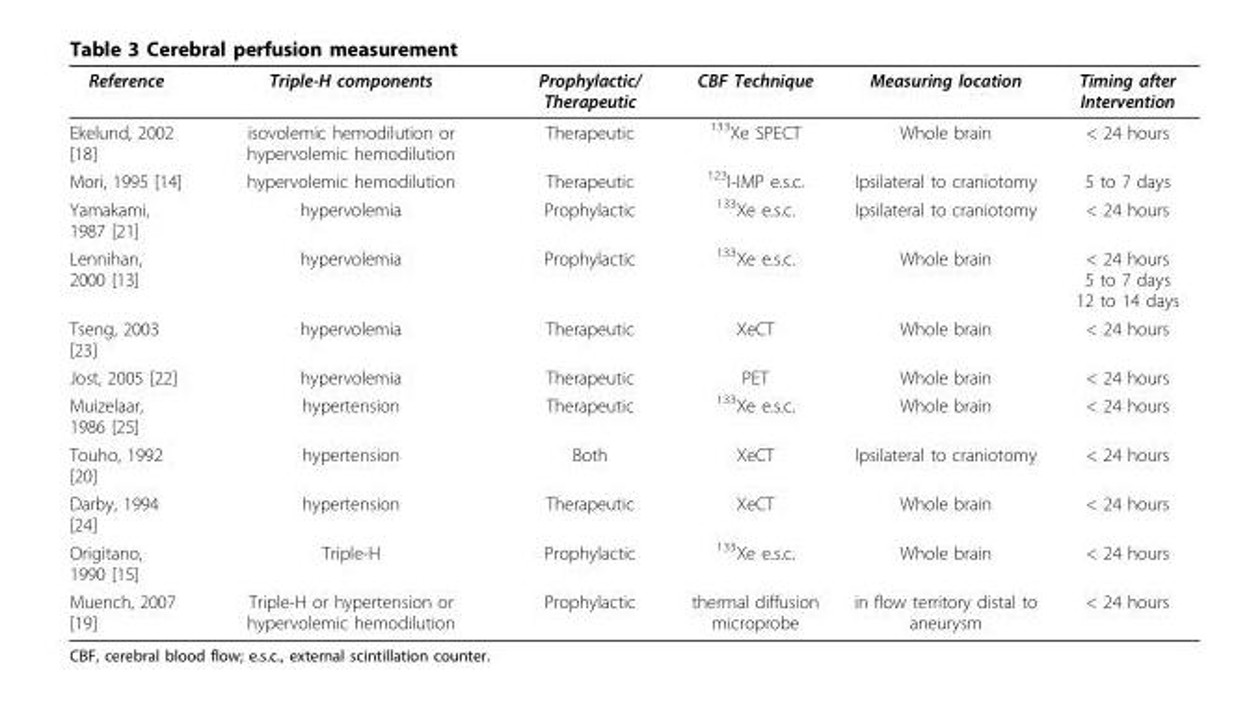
<table><thead><tr><td>Reference</td><td>Triple-H components</td><td>Prophylactic/ Therapeutic</td><td>CBF Technique</td><td>Measuring location</td><td>Timing after Intervention</td></tr></thead><tbody><tr><td>Ekelund, 2002 [18]</td><td>isovolemic hemodilution or hypervolemic hemodilution</td><td>Therapeutic</td><td><sup>133</sup>Xe SPECT</td><td>Whole brain</td><td>&lt; 24 hours</td></tr><tr><td>Mori, 1995 [14]</td><td>hypervolemic hemodilution</td><td>Therapeutic</td><td><sup>123</sup>I-IMP e.s.c.</td><td>Ipsilateral to craniotomy</td><td>5 to 7 days</td></tr><tr><td>Yamakami, 1987 [21]</td><td>hypervolemia</td><td>Prophylactic</td><td><sup>133</sup>Xe e.s.c.</td><td>Ipsilateral to craniotomy</td><td>&lt; 24 hours</td></tr><tr><td>Lennihan, 2000 [13]</td><td>hypervolemia</td><td>Prophylactic</td><td><sup>133</sup>Xe e.s.c.</td><td>Whole brain</td><td>&lt; 24 hours 5 to 7 days 12 to 14 days</td></tr><tr><td>Tseng, 2003 [23]</td><td>hypervolemia</td><td>Therapeutic</td><td>XeCT</td><td>Whole brain</td><td>&lt; 24 hours</td></tr><tr><td>Jost, 2005 [22]</td><td>hypervolemia</td><td>Therapeutic</td><td>PET</td><td>Whole brain</td><td>&lt; 24 hours</td></tr><tr><td>Muizelaar, 1986 [25]</td><td>hypertension</td><td>Therapeutic</td><td><sup>133</sup>Xe e.s.c.</td><td>Whole brain</td><td>&lt; 24 hours</td></tr><tr><td>Touho, 1992 [20]</td><td>hypertension</td><td>Both</td><td>XeCT</td><td>Ipsilateral to craniotomy</td><td>&lt; 24 hours</td></tr><tr><td>Darby, 1994 [24]</td><td>hypertension</td><td>Therapeutic</td><td>XeCT</td><td>Whole brain</td><td>&lt; 24 hours</td></tr><tr><td>Origitano, 1990 [15]</td><td>Triple-H</td><td>Prophylactic</td><td><sup>133</sup>Xe e.s.c.</td><td>Whole brain</td><td>&lt; 24 hours</td></tr><tr><td>Muench, 2007 [19]</td><td>Triple-H or hypertension or hypervolemic hemodilution</td><td>Prophylactic</td><td>thermal diffusion microprobe</td><td>in flow territory distal to aneurysm</td><td>&lt; 24 hours</td></tr></tbody></table>